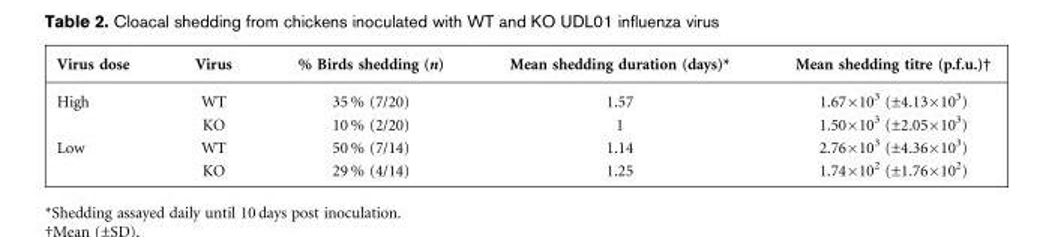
<table><thead><tr><td>Virus dose</td><td>Virus</td><td>% Birds shedding (n)</td><td>Mean shedding duration (days)*</td><td>Mean shedding titre (p.f.u.)†</td></tr></thead><tbody><tr><td rowspan="2">High</td><td>WT</td><td>35 % (7/20)</td><td>1.57</td><td>1.67×10<sup>3</sup> (±4.13×10<sup>3</sup>)</td></tr><tr><td>KO</td><td>10 % (2/20)</td><td>1</td><td>1.50×10<sup>3</sup> (±2.05×10<sup>3</sup>)</td></tr><tr><td rowspan="2">Low</td><td>WT</td><td>50 % (7/14)</td><td>1.14</td><td>2.76×10<sup>3</sup> (±4.36×10<sup>3</sup>)</td></tr><tr><td>KO</td><td>29 % (4/14)</td><td>1.25</td><td>1.74×10<sup>2</sup> (±1.76×10<sup>2</sup>)</td></tr></tbody></table>